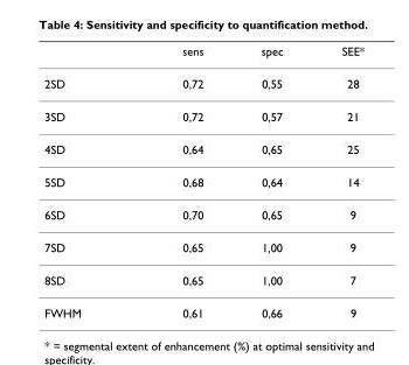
<table><thead><tr><td></td><td>sens</td><td>spec</td><td>SEE*</td></tr></thead><tbody><tr><td>2SD</td><td>0,72</td><td>0,55</td><td>28</td></tr><tr><td>3SD</td><td>0,72</td><td>0,57</td><td>21</td></tr><tr><td>4SD</td><td>0,64</td><td>0,65</td><td>25</td></tr><tr><td>5SD</td><td>0,68</td><td>0,64</td><td>14</td></tr><tr><td>6SD</td><td>0,70</td><td>0,65</td><td>9</td></tr><tr><td>7SD</td><td>0,65</td><td>1,00</td><td>9</td></tr><tr><td>8SD</td><td>0,65</td><td>1,00</td><td>7</td></tr><tr><td>FWHM</td><td>0,61</td><td>0,66</td><td>9</td></tr></tbody></table>